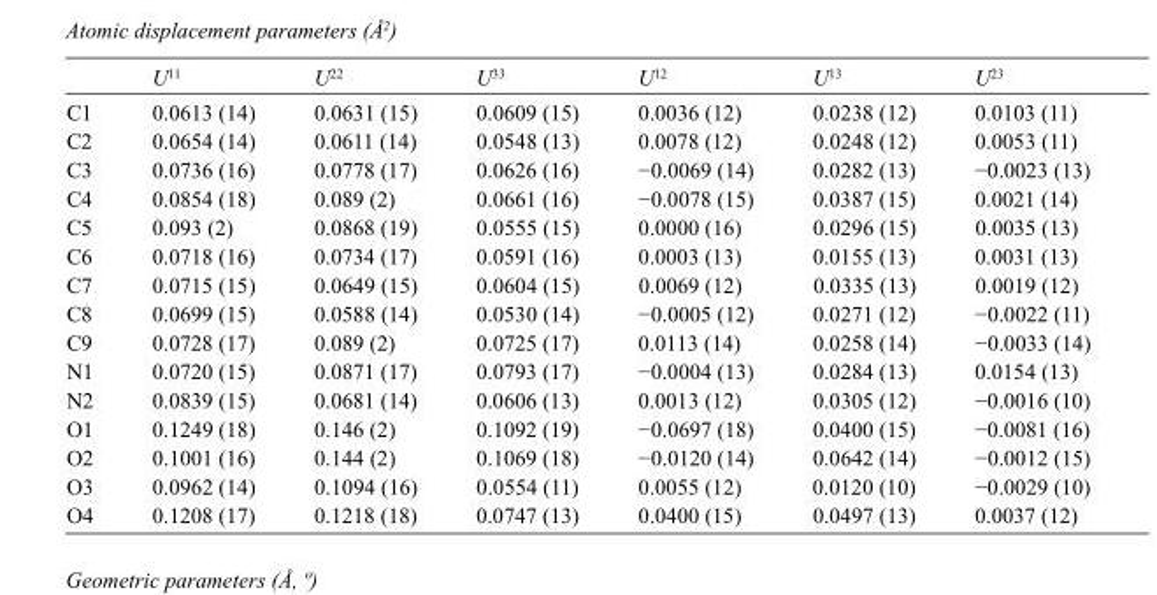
<table><thead><tr><td></td><td>U<sup>11</sup></td><td>U<sup>22</sup></td><td>U<sup>33</sup></td><td>U<sup>12</sup></td><td>U<sup>13</sup></td><td>U<sup>23</sup></td></tr></thead><tbody><tr><td>C1</td><td>0.0613 (14)</td><td>0.0631 (15)</td><td>0.0609 (15)</td><td>0.0036 (12)</td><td>0.0238 (12)</td><td>0.0103 (11)</td></tr><tr><td>C2</td><td>0.0654 (14)</td><td>0.0611 (14)</td><td>0.0548 (13)</td><td>0.0078 (12)</td><td>0.0248 (12)</td><td>0.0053 (11)</td></tr><tr><td>C3</td><td>0.0736 (16)</td><td>0.0778 (17)</td><td>0.0626 (16)</td><td>−0.0069 (14)</td><td>0.0282 (13)</td><td>−0.0023 (13)</td></tr><tr><td>C4</td><td>0.0854 (18)</td><td>0.089 (2)</td><td>0.0661 (16)</td><td>−0.0078 (15)</td><td>0.0387 (15)</td><td>0.0021 (14)</td></tr><tr><td>C5</td><td>0.093 (2)</td><td>0.0868 (19)</td><td>0.0555 (15)</td><td>0.0000 (16)</td><td>0.0296 (15)</td><td>0.0035 (13)</td></tr><tr><td>C6</td><td>0.0718 (16)</td><td>0.0734 (17)</td><td>0.0591 (16)</td><td>0.0003 (13)</td><td>0.0155 (13)</td><td>0.0031 (13)</td></tr><tr><td>C7</td><td>0.0715 (15)</td><td>0.0649 (15)</td><td>0.0604 (15)</td><td>0.0069 (12)</td><td>0.0335 (13)</td><td>0.0019 (12)</td></tr><tr><td>C8</td><td>0.0699 (15)</td><td>0.0588 (14)</td><td>0.0530 (14)</td><td>−0.0005 (12)</td><td>0.0271 (12)</td><td>−0.0022 (11)</td></tr><tr><td>C9</td><td>0.0728 (17)</td><td>0.089 (2)</td><td>0.0725 (17)</td><td>0.0113 (14)</td><td>0.0258 (14)</td><td>−0.0033 (14)</td></tr><tr><td>N1</td><td>0.0720 (15)</td><td>0.0871 (17)</td><td>0.0793 (17)</td><td>−0.0004 (13)</td><td>0.0284 (13)</td><td>0.0154 (13)</td></tr><tr><td>N2</td><td>0.0839 (15)</td><td>0.0681 (14)</td><td>0.0606 (13)</td><td>0.0013 (12)</td><td>0.0305 (12)</td><td>−0.0016 (10)</td></tr><tr><td>O1</td><td>0.1249 (18)</td><td>0.146 (2)</td><td>0.1092 (19)</td><td>−0.0697 (18)</td><td>0.0400 (15)</td><td>−0.0081 (16)</td></tr><tr><td>O2</td><td>0.1001 (16)</td><td>0.144 (2)</td><td>0.1069 (18)</td><td>−0.0120 (14)</td><td>0.0642 (14)</td><td>−0.0012 (15)</td></tr><tr><td>O3</td><td>0.0962 (14)</td><td>0.1094 (16)</td><td>0.0554 (11)</td><td>0.0055 (12)</td><td>0.0120 (10)</td><td>−0.0029 (10)</td></tr><tr><td>O4</td><td>0.1208 (17)</td><td>0.1218 (18)</td><td>0.0747 (13)</td><td>0.0400 (15)</td><td>0.0497 (13)</td><td>0.0037 (12)</td></tr></tbody></table>